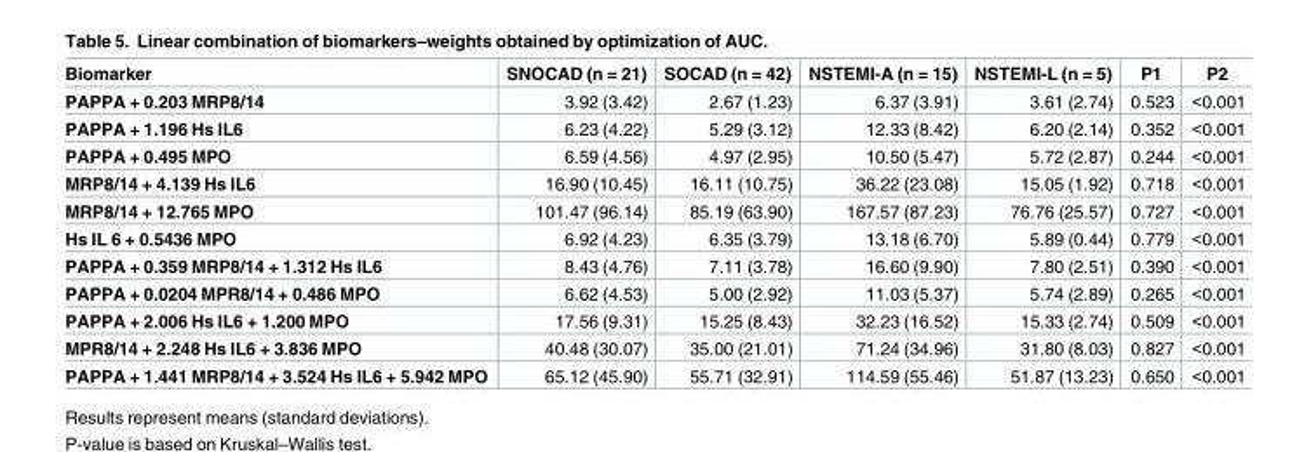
<table><thead><tr><td>Biomarker</td><td>SNOCAD (n = 21)</td><td>SOCAD (n = 42)</td><td>NSTEMI-A (n = 15)</td><td>NSTEMI-L (n = 5)</td><td>P1</td><td>P2</td></tr></thead><tbody><tr><td>PAPPA + 0.203 MRP8/14</td><td>3.92 (3.42)</td><td>2.67 (1.23)</td><td>6.37 (3.91)</td><td>3.61 (2.74)</td><td>0.523</td><td>&lt;0.001</td></tr><tr><td>PAPPA + 1.196 Hs IL6</td><td>6.23 (4.22)</td><td>5.29 (3.12)</td><td>12.33 (8.42)</td><td>6.20 (2.14)</td><td>0.352</td><td>&lt;0.001</td></tr><tr><td>PAPPA + 0.495 MPO</td><td>6.59 (4.56)</td><td>4.97 (2.95)</td><td>10.50 (5.47)</td><td>5.72 (2.87)</td><td>0.244</td><td>&lt;0.001</td></tr><tr><td>MRP8/14 + 4.139 Hs IL6</td><td>16.90 (10.45)</td><td>16.11 (10.75)</td><td>36.22 (23.08)</td><td>15.05 (1.92)</td><td>0.718</td><td>&lt;0.001</td></tr><tr><td>MRP8/14 + 12.765 MPO</td><td>101.47 (96.14)</td><td>85.19 (63.90)</td><td>167.57 (87.23)</td><td>76.76 (25.57)</td><td>0.727</td><td>&lt;0.001</td></tr><tr><td>Hs IL 6 + 0.5436 MPO</td><td>6.92 (4.23)</td><td>6.35 (3.79)</td><td>13.18 (6.70)</td><td>5.89 (0.44)</td><td>0.779</td><td>&lt;0.001</td></tr><tr><td>PAPPA + 0.359 MRP8/14 + 1.312 Hs IL6</td><td>8.43 (4.76)</td><td>7.11 (3.78)</td><td>16.60 (9.90)</td><td>7.80 (2.51)</td><td>0.390</td><td>&lt;0.001</td></tr><tr><td>PAPPA + 0.0204 MPR8/14 + 0.486 MPO</td><td>6.62 (4.53)</td><td>5.00 (2.92)</td><td>11.03 (5.37)</td><td>5.74 (2.89)</td><td>0.265</td><td>&lt;0.001</td></tr><tr><td>PAPPA + 2.006 Hs IL6 + 1.200 MPO</td><td>17.56 (9.31)</td><td>15.25 (8.43)</td><td>32.23 (16.52)</td><td>15.33 (2.74)</td><td>0.509</td><td>&lt;0.001</td></tr><tr><td>MPR8/14 + 2.248 Hs IL6 + 3.836 MPO</td><td>40.48 (30.07)</td><td>35.00 (21.01)</td><td>71.24 (34.96)</td><td>31.80 (8.03)</td><td>0.827</td><td>&lt;0.001</td></tr><tr><td>PAPPA + 1.441 MRP8/14 + 3.524 Hs IL6 + 5.942 MPO</td><td>65.12 (45.90)</td><td>55.71 (32.91)</td><td>114.59 (55.46)</td><td>51.87 (13.23)</td><td>0.650</td><td>&lt;0.001</td></tr></tbody></table>